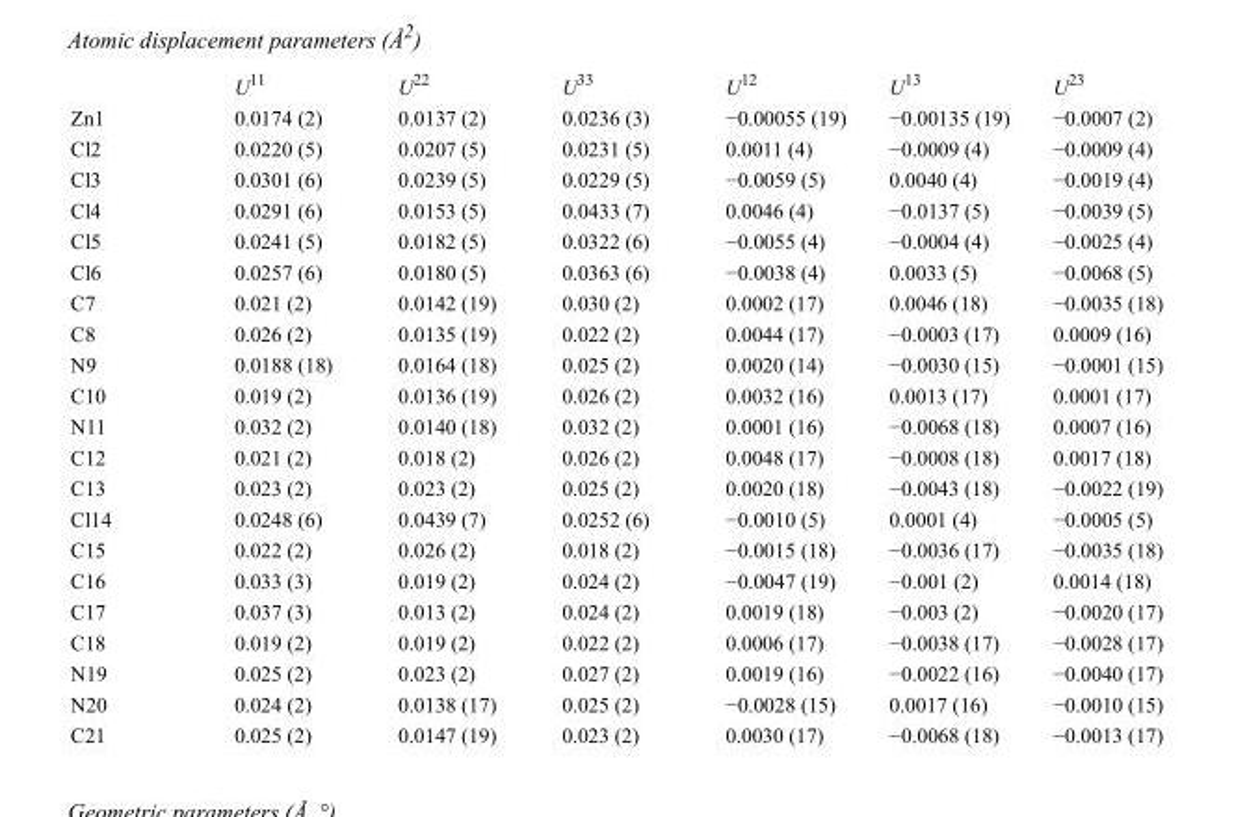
<table><thead><tr><td></td><td>U<sup>11</sup></td><td>U<sup>22</sup></td><td>U<sup>33</sup></td><td>U<sup>12</sup></td><td>U<sup>13</sup></td><td>U<sup>23</sup></td></tr></thead><tbody><tr><td>Zn1</td><td>0.0174 (2)</td><td>0.0137 (2)</td><td>0.0236 (3)</td><td>−0.00055 (19)</td><td>−0.00135 (19)</td><td>−0.0007 (2)</td></tr><tr><td>Cl2</td><td>0.0220 (5)</td><td>0.0207 (5)</td><td>0.0231 (5)</td><td>0.0011 (4)</td><td>−0.0009 (4)</td><td>−0.0009 (4)</td></tr><tr><td>Cl3</td><td>0.0301 (6)</td><td>0.0239 (5)</td><td>0.0229 (5)</td><td>−0.0059 (5)</td><td>0.0040 (4)</td><td>−0.0019 (4)</td></tr><tr><td>Cl4</td><td>0.0291 (6)</td><td>0.0153 (5)</td><td>0.0433 (7)</td><td>0.0046 (4)</td><td>−0.0137 (5)</td><td>−0.0039 (5)</td></tr><tr><td>Cl5</td><td>0.0241 (5)</td><td>0.0182 (5)</td><td>0.0322 (6)</td><td>−0.0055 (4)</td><td>−0.0004 (4)</td><td>−0.0025 (4)</td></tr><tr><td>Cl6</td><td>0.0257 (6)</td><td>0.0180 (5)</td><td>0.0363 (6)</td><td>−0.0038 (4)</td><td>0.0033 (5)</td><td>−0.0068 (5)</td></tr><tr><td>C7</td><td>0.021 (2)</td><td>0.0142 (19)</td><td>0.030 (2)</td><td>0.0002 (17)</td><td>0.0046 (18)</td><td>−0.0035 (18)</td></tr><tr><td>C8</td><td>0.026 (2)</td><td>0.0135 (19)</td><td>0.022 (2)</td><td>0.0044 (17)</td><td>−0.0003 (17)</td><td>0.0009 (16)</td></tr><tr><td>N9</td><td>0.0188 (18)</td><td>0.0164 (18)</td><td>0.025 (2)</td><td>0.0020 (14)</td><td>−0.0030 (15)</td><td>−0.0001 (15)</td></tr><tr><td>C10</td><td>0.019 (2)</td><td>0.0136 (19)</td><td>0.026 (2)</td><td>0.0032 (16)</td><td>0.0013 (17)</td><td>0.0001 (17)</td></tr><tr><td>N11</td><td>0.032 (2)</td><td>0.0140 (18)</td><td>0.032 (2)</td><td>0.0001 (16)</td><td>−0.0068 (18)</td><td>0.0007 (16)</td></tr><tr><td>C12</td><td>0.021 (2)</td><td>0.018 (2)</td><td>0.026 (2)</td><td>0.0048 (17)</td><td>−0.0008 (18)</td><td>0.0017 (18)</td></tr><tr><td>C13</td><td>0.023 (2)</td><td>0.023 (2)</td><td>0.025 (2)</td><td>0.0020 (18)</td><td>−0.0043 (18)</td><td>−0.0022 (19)</td></tr><tr><td>Cl14</td><td>0.0248 (6)</td><td>0.0439 (7)</td><td>0.0252 (6)</td><td>−0.0010 (5)</td><td>0.0001 (4)</td><td>−0.0005 (5)</td></tr><tr><td>C15</td><td>0.022 (2)</td><td>0.026 (2)</td><td>0.018 (2)</td><td>−0.0015 (18)</td><td>−0.0036 (17)</td><td>−0.0035 (18)</td></tr><tr><td>C16</td><td>0.033 (3)</td><td>0.019 (2)</td><td>0.024 (2)</td><td>−0.0047 (19)</td><td>−0.001 (2)</td><td>0.0014 (18)</td></tr><tr><td>C17</td><td>0.037 (3)</td><td>0.013 (2)</td><td>0.024 (2)</td><td>0.0019 (18)</td><td>−0.003 (2)</td><td>−0.0020 (17)</td></tr><tr><td>C18</td><td>0.019 (2)</td><td>0.019 (2)</td><td>0.022 (2)</td><td>0.0006 (17)</td><td>−0.0038 (17)</td><td>−0.0028 (17)</td></tr><tr><td>N19</td><td>0.025 (2)</td><td>0.023 (2)</td><td>0.027 (2)</td><td>0.0019 (16)</td><td>−0.0022 (16)</td><td>−0.0040 (17)</td></tr><tr><td>N20</td><td>0.024 (2)</td><td>0.0138 (17)</td><td>0.025 (2)</td><td>−0.0028 (15)</td><td>0.0017 (16)</td><td>−0.0010 (15)</td></tr><tr><td>C21</td><td>0.025 (2)</td><td>0.0147 (19)</td><td>0.023 (2)</td><td>0.0030 (17)</td><td>−0.0068 (18)</td><td>−0.0013 (17)</td></tr></tbody></table>